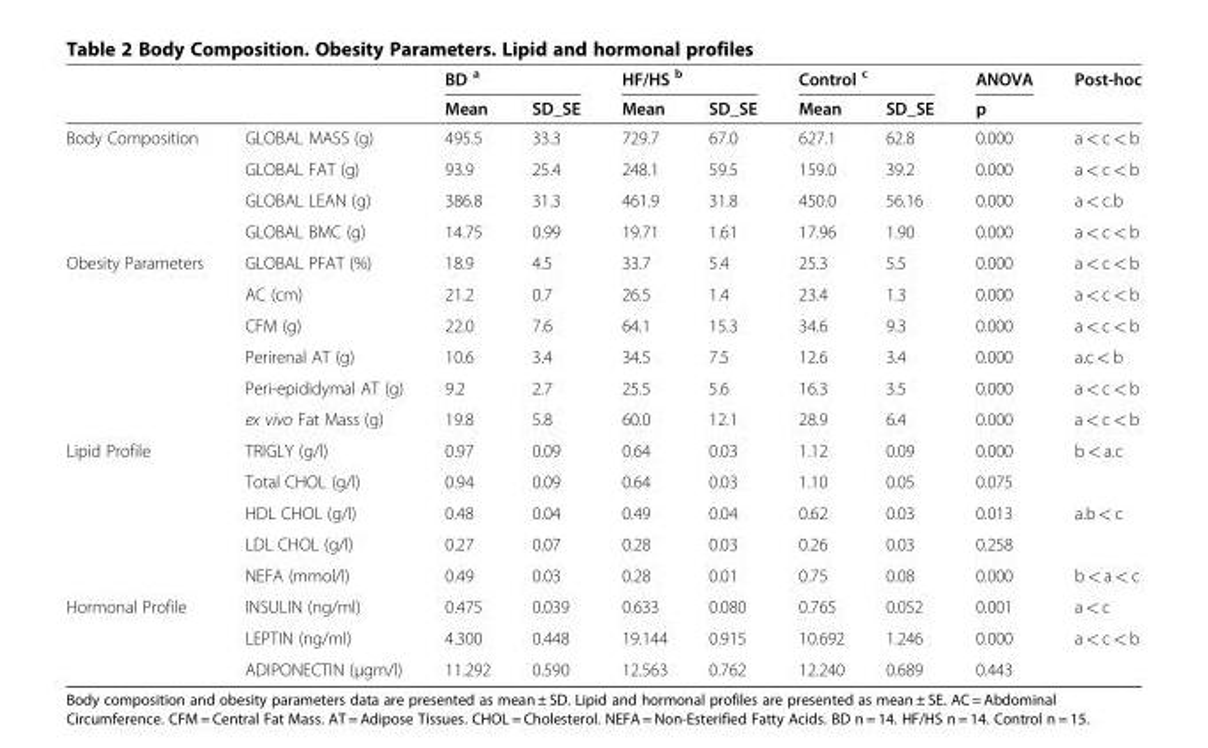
<table><thead><tr><td rowspan="2"></td><td rowspan="2"></td><td colspan="2">BD <sup>a</sup></td><td colspan="2">HF/HS <sup>b</sup></td><td colspan="2">Control <sup>c</sup></td><td rowspan="2">ANOVA p</td><td rowspan="2">Post-hoc</td></tr><tr><td>Mean</td><td>SD_SE</td><td>Mean</td><td>SD_SE</td><td>Mean</td><td>SD_SE</td></tr></thead><tbody><tr><td rowspan="4">Body Composition</td><td>GLOBAL MASS (g)</td><td>495.5</td><td>33.3</td><td>729.7</td><td>67.0</td><td>627.1</td><td>62.8</td><td>0.000</td><td>a &lt; c &lt; b</td></tr><tr><td>GLOBAL FAT (g)</td><td>93.9</td><td>25.4</td><td>248.1</td><td>59.5</td><td>159.0</td><td>39.2</td><td>0.000</td><td>a &lt; c &lt; b</td></tr><tr><td>GLOBAL LEAN (g)</td><td>386.8</td><td>31.3</td><td>461.9</td><td>31.8</td><td>450.0</td><td>56.16</td><td>0.000</td><td>a &lt; c.b</td></tr><tr><td>GLOBAL BMC (g)</td><td>14.75</td><td>0.99</td><td>19.71</td><td>1.61</td><td>17.96</td><td>1.90</td><td>0.000</td><td>a &lt; c &lt; b</td></tr><tr><td rowspan="6">Obesity Parameters</td><td>GLOBAL PFAT (%)</td><td>18.9</td><td>4.5</td><td>33.7</td><td>5.4</td><td>25.3</td><td>5.5</td><td>0.000</td><td>a &lt; c &lt; b</td></tr><tr><td>AC (cm)</td><td>21.2</td><td>0.7</td><td>26.5</td><td>1.4</td><td>23.4</td><td>1.3</td><td>0.000</td><td>a &lt; c &lt; b</td></tr><tr><td>CFM (g)</td><td>22.0</td><td>7.6</td><td>64.1</td><td>15.3</td><td>34.6</td><td>9.3</td><td>0.000</td><td>a &lt; c &lt; b</td></tr><tr><td>Perirenal AT (g)</td><td>10.6</td><td>3.4</td><td>34.5</td><td>7.5</td><td>12.6</td><td>3.4</td><td>0.000</td><td>a.c &lt; b</td></tr><tr><td>Peri-epididymal AT (g)</td><td>9.2</td><td>2.7</td><td>25.5</td><td>5.6</td><td>16.3</td><td>3.5</td><td>0.000</td><td>a &lt; c &lt; b</td></tr><tr><td>ex vivo Fat Mass (g)</td><td>19.8</td><td>5.8</td><td>60.0</td><td>12.1</td><td>28.9</td><td>6.4</td><td>0.000</td><td>a &lt; c &lt; b</td></tr><tr><td rowspan="5">Lipid Profile</td><td>TRIGLY (g/l)</td><td>0.97</td><td>0.09</td><td>0.64</td><td>0.03</td><td>1.12</td><td>0.09</td><td>0.000</td><td>b &lt; a.c</td></tr><tr><td>Total CHOL (g/l)</td><td>0.94</td><td>0.09</td><td>0.64</td><td>0.03</td><td>1.10</td><td>0.05</td><td>0.075</td><td></td></tr><tr><td>HDL CHOL (g/l)</td><td>0.48</td><td>0.04</td><td>0.49</td><td>0.04</td><td>0.62</td><td>0.03</td><td>0.013</td><td>a.b &lt; c</td></tr><tr><td>LDL CHOL (g/l)</td><td>0.27</td><td>0.07</td><td>0.28</td><td>0.03</td><td>0.26</td><td>0.03</td><td>0.258</td><td></td></tr><tr><td>NEFA (mmol/l)</td><td>0.49</td><td>0.03</td><td>0.28</td><td>0.01</td><td>0.75</td><td>0.08</td><td>0.000</td><td>b &lt; a &lt; c</td></tr><tr><td rowspan="3">Hormonal Profile</td><td>INSULIN (ng/ml)</td><td>0.475</td><td>0.039</td><td>0.633</td><td>0.080</td><td>0.765</td><td>0.052</td><td>0.001</td><td>a &lt; c</td></tr><tr><td>LEPTIN (ng/ml)</td><td>4.300</td><td>0.448</td><td>19.144</td><td>0.915</td><td>10.692</td><td>1.246</td><td>0.000</td><td>a &lt; c &lt; b</td></tr><tr><td>ADIPONECTIN (μgm/l)</td><td>11.292</td><td>0.590</td><td>12.563</td><td>0.762</td><td>12.240</td><td>0.689</td><td>0.443</td><td></td></tr></tbody></table>